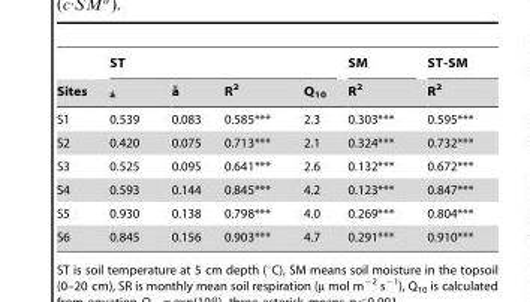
<table><thead><tr><td rowspan="2">Sites</td><td colspan="4">ST</td><td rowspan="2">SM R<sup>2</sup></td><td rowspan="2">ST-SM R<sup>2</sup></td></tr><tr><td>a´</td><td>aˆ</td><td>R<sup>2</sup></td><td>Q<sub>10</sub></td></tr></thead><tbody><tr><td>S1</td><td>0.539</td><td>0.083</td><td>0.585***</td><td>2.3</td><td>0.303***</td><td>0.595***</td></tr><tr><td>S2</td><td>0.420</td><td>0.075</td><td>0.713***</td><td>2.1</td><td>0.324***</td><td>0.732***</td></tr><tr><td>S3</td><td>0.525</td><td>0.095</td><td>0.641***</td><td>2.6</td><td>0.132***</td><td>0.672***</td></tr><tr><td>S4</td><td>0.593</td><td>0.144</td><td>0.845***</td><td>4.2</td><td>0.123***</td><td>0.847***</td></tr><tr><td>S5</td><td>0.930</td><td>0.138</td><td>0.798***</td><td>4.0</td><td>0.269***</td><td>0.804***</td></tr><tr><td>S6</td><td>0.845</td><td>0.156</td><td>0.903***</td><td>4.7</td><td>0.291***</td><td>0.910***</td></tr></tbody></table>